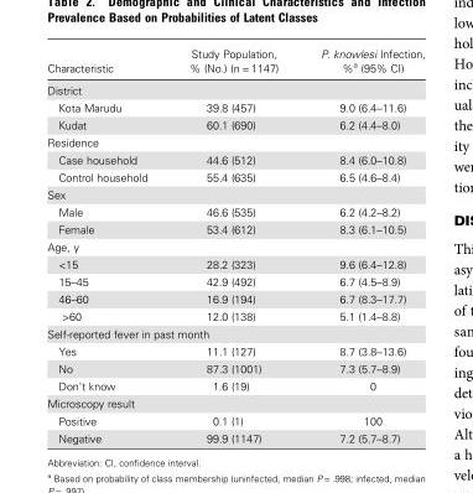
<table><thead><tr><td>Characteristic</td><td>Study Population, % (No.) (n = 1147)</td><td>P. knowlesi Infection, %<sup>a</sup> (95% CI)</td></tr></thead><tbody><tr><td colspan="3">District</td></tr><tr><td>Kota Marudu</td><td>39.8 (457)</td><td>9.0 (6.4–11.6)</td></tr><tr><td>Kudat</td><td>60.1 (690)</td><td>6.2 (4.4–8.0)</td></tr><tr><td colspan="3">Residence</td></tr><tr><td>Case household</td><td>44.6 (512)</td><td>8.4 (6.0–10.8)</td></tr><tr><td>Control household</td><td>55.4 (635)</td><td>6.5 (4.6–8.4)</td></tr><tr><td colspan="3">Sex</td></tr><tr><td>Male</td><td>46.6 (535)</td><td>6.2 (4.2–8.2)</td></tr><tr><td>Female</td><td>53.4 (612)</td><td>8.3 (6.1–10.5)</td></tr><tr><td colspan="3">Age, y</td></tr><tr><td>&lt;15</td><td>28.2 (323)</td><td>9.6 (6.4–12.8)</td></tr><tr><td>15–45</td><td>42.9 (492)</td><td>6.7 (4.5–8.9)</td></tr><tr><td>46–60</td><td>16.9 (194)</td><td>6.7 (8.3–17.7)</td></tr><tr><td>&gt;60</td><td>12.0 (138)</td><td>5.1 (1.4–8.8)</td></tr><tr><td colspan="3">Self-reported fever in past month</td></tr><tr><td>Yes</td><td>11.1 (127)</td><td>8.7 (3.8–13.6)</td></tr><tr><td>No</td><td>87.3 (1001)</td><td>7.3 (5.7–8.9)</td></tr><tr><td>Don’t know</td><td>1.6 (19)</td><td>0</td></tr><tr><td colspan="3">Microscopy result</td></tr><tr><td>Positive</td><td>0.1 (1)</td><td>100</td></tr><tr><td>Negative</td><td>99.9 (1147)</td><td>7.2 (5.7–8.7)</td></tr></tbody></table>